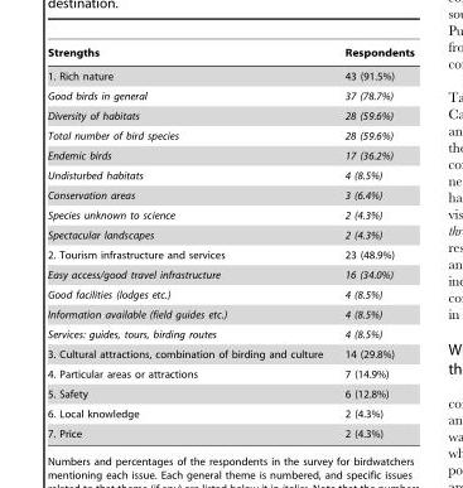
<table><thead><tr><td>Strengths</td><td>Respondents</td></tr></thead><tbody><tr><td>1. Rich nature</td><td>43 (91.5%)</td></tr><tr><td>Good birds in general</td><td>37 (78.7%)</td></tr><tr><td>Diversity of habitats</td><td>28 (59.6%)</td></tr><tr><td>Total number of bird species</td><td>28 (59.6%)</td></tr><tr><td>Endemic birds</td><td>17 (36.2%)</td></tr><tr><td>Undisturbed habitats</td><td>4 (8.5%)</td></tr><tr><td>Conservation areas</td><td>3 (6.4%)</td></tr><tr><td>Species unknown to science</td><td>2 (4.3%)</td></tr><tr><td>Spectacular landscapes</td><td>2 (4.3%)</td></tr><tr><td>2. Tourism infrastructure and services</td><td>23 (48.9%)</td></tr><tr><td>Easy access/good travel infrastructure</td><td>16 (34.0%)</td></tr><tr><td>Good facilities (lodges etc.)</td><td>4 (8.5%)</td></tr><tr><td>Information available (field guides etc.)</td><td>4 (8.5%)</td></tr><tr><td>Services: guides, tours, birding routes</td><td>4 (8.5%)</td></tr><tr><td>3. Cultural attractions, combination of birding and culture</td><td>14 (29.8%)</td></tr><tr><td>4. Particular areas or attractions</td><td>7 (14.9%)</td></tr><tr><td>5. Safety</td><td>6 (12.8%)</td></tr><tr><td>6. Local knowledge</td><td>2 (4.3%)</td></tr><tr><td>7. Price</td><td>2 (4.3%)</td></tr></tbody></table>